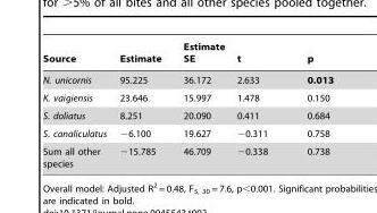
<table><thead><tr><td>Source</td><td>Estimate</td><td>Estimate SE</td><td>t</td><td>p</td></tr></thead><tbody><tr><td>N. unicornis</td><td>95.225</td><td>36.172</td><td>2.633</td><td>0.013</td></tr><tr><td>K. vaigiensis</td><td>23.646</td><td>15.997</td><td>1.478</td><td>0.150</td></tr><tr><td>S. doliatus</td><td>8.251</td><td>20.090</td><td>0.411</td><td>0.684</td></tr><tr><td>S. canaliculatus</td><td>−6.100</td><td>19.627</td><td>−0.311</td><td>0.758</td></tr><tr><td>Sum all other species</td><td>−15.785</td><td>46.709</td><td>−0.338</td><td>0.738</td></tr></tbody></table>